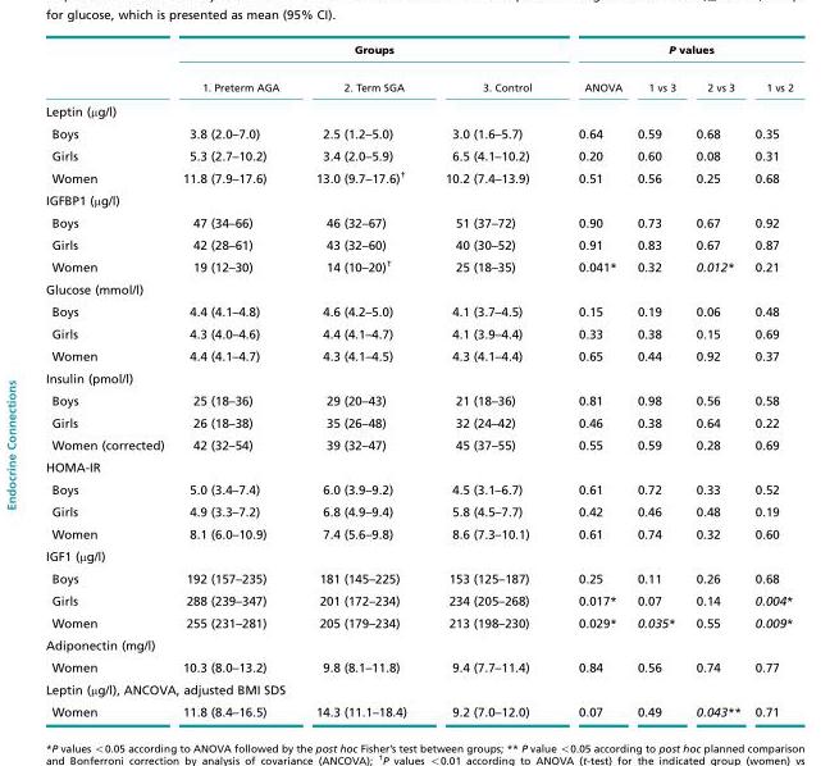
<table><thead><tr><td rowspan="2"></td><td colspan="3">Groups</td><td colspan="4">P values</td></tr><tr><td>1. Preterm AGA</td><td>2. Term SGA</td><td>3. Control</td><td>ANOVA</td><td>1 vs 3</td><td>2 vs 3</td><td>1 vs 2</td></tr></thead><tbody><tr><td colspan="8">Leptin (μg/l)</td></tr><tr><td>Boys</td><td>3.8 (2.0–7.0)</td><td>2.5 (1.2–5.0)</td><td>3.0 (1.6–5.7)</td><td>0.64</td><td>0.59</td><td>0.68</td><td>0.35</td></tr><tr><td>Girls</td><td>5.3 (2.7–10.2)</td><td>3.4 (2.0–5.9)</td><td>6.5 (4.1–10.2)</td><td>0.20</td><td>0.60</td><td>0.08</td><td>0.31</td></tr><tr><td>Women</td><td>11.8 (7.9–17.6)</td><td>13.0 (9.7–17.6)<sup>†</sup></td><td>10.2 (7.4–13.9)</td><td>0.51</td><td>0.56</td><td>0.25</td><td>0.68</td></tr><tr><td colspan="8">IGFBP1 (μg/l)</td></tr><tr><td>Boys</td><td>47 (34–66)</td><td>46 (32–67)</td><td>51 (37–72)</td><td>0.90</td><td>0.73</td><td>0.67</td><td>0.92</td></tr><tr><td>Girls</td><td>42 (28–61)</td><td>43 (32–60)</td><td>40 (30–52)</td><td>0.91</td><td>0.83</td><td>0.67</td><td>0.87</td></tr><tr><td>Women</td><td>19 (12–30)</td><td>14 (10–20)<sup>†</sup></td><td>25 (18–35)</td><td>0.041*</td><td>0.32</td><td>0.012*</td><td>0.21</td></tr><tr><td colspan="8">Glucose (mmol/l)</td></tr><tr><td>Boys</td><td>4.4 (4.1–4.8)</td><td>4.6 (4.2–5.0)</td><td>4.1 (3.7–4.5)</td><td>0.15</td><td>0.19</td><td>0.06</td><td>0.48</td></tr><tr><td>Girls</td><td>4.3 (4.0–4.6)</td><td>4.4 (4.1–4.7)</td><td>4.1 (3.9–4.4)</td><td>0.33</td><td>0.38</td><td>0.15</td><td>0.69</td></tr><tr><td>Women</td><td>4.4 (4.1–4.7)</td><td>4.3 (4.1–4.5)</td><td>4.3 (4.1–4.4)</td><td>0.65</td><td>0.44</td><td>0.92</td><td>0.37</td></tr><tr><td colspan="8">Insulin (pmol/l)</td></tr><tr><td>Boys</td><td>25 (18–36)</td><td>29 (20–43)</td><td>21 (18–36)</td><td>0.81</td><td>0.98</td><td>0.56</td><td>0.58</td></tr><tr><td>Girls</td><td>26 (18–38)</td><td>35 (26–48)</td><td>32 (24–42)</td><td>0.46</td><td>0.38</td><td>0.64</td><td>0.22</td></tr><tr><td>Women (corrected)</td><td>42 (32–54)</td><td>39 (32–47)</td><td>45 (37–55)</td><td>0.55</td><td>0.59</td><td>0.28</td><td>0.69</td></tr><tr><td colspan="8">HOMA-IR</td></tr><tr><td>Boys</td><td>5.0 (3.4–7.4)</td><td>6.0 (3.9–9.2)</td><td>4.5 (3.1–6.7)</td><td>0.61</td><td>0.72</td><td>0.33</td><td>0.52</td></tr><tr><td>Girls</td><td>4.9 (3.3–7.2)</td><td>6.8 (4.9–9.4)</td><td>5.8 (4.5–7.7)</td><td>0.42</td><td>0.46</td><td>0.48</td><td>0.19</td></tr><tr><td>Women</td><td>8.1 (6.0–10.9)</td><td>7.4 (5.6–9.8)</td><td>8.6 (7.3–10.1)</td><td>0.61</td><td>0.74</td><td>0.32</td><td>0.60</td></tr><tr><td colspan="8">IGF1 (μg/l)</td></tr><tr><td>Boys</td><td>192 (157–235)</td><td>181 (145–225)</td><td>153 (125–187)</td><td>0.25</td><td>0.11</td><td>0.26</td><td>0.68</td></tr><tr><td>Girls</td><td>288 (239–347)</td><td>201 (172–234)</td><td>234 (205–268)</td><td>0.017*</td><td>0.07</td><td>0.14</td><td>0.004*</td></tr><tr><td>Women</td><td>255 (231–281)</td><td>205 (179–234)</td><td>213 (198–230)</td><td>0.029*</td><td>0.035*</td><td>0.55</td><td>0.009*</td></tr><tr><td colspan="8">Adiponectin (mg/l)</td></tr><tr><td>Women</td><td>10.3 (8.0–13.2)</td><td>9.8 (8.1–11.8)</td><td>9.4 (7.7–11.4)</td><td>0.84</td><td>0.56</td><td>0.74</td><td>0.77</td></tr><tr><td colspan="8">Leptin (μg/l), ANCOVA, adjusted BMI SDS</td></tr><tr><td>Women</td><td>11.8 (8.4–16.5)</td><td>14.3 (11.1–18.4)</td><td>9.2 (7.0–12.0)</td><td>0.07</td><td>0.49</td><td>0.043**</td><td>0.71</td></tr></tbody></table>